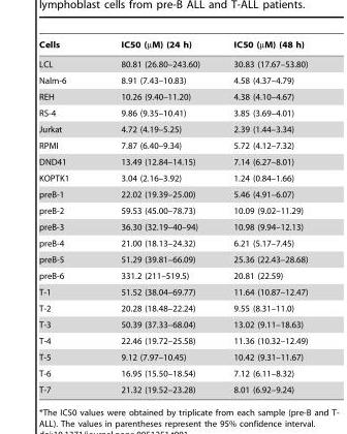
<table><thead><tr><td>Cells</td><td>IC50 (µM) (24 h)</td><td>IC50 (µM) (48 h)</td></tr></thead><tbody><tr><td>LCL</td><td>80.81 (26.80–243.60)</td><td>30.83 (17.67–53.80)</td></tr><tr><td>Nalm-6</td><td>8.91 (7.43–10.83)</td><td>4.58 (4.37–4.79)</td></tr><tr><td>REH</td><td>10.26 (9.40–11.20)</td><td>4.38 (4.10–4.67)</td></tr><tr><td>RS-4</td><td>9.86 (9.35–10.41)</td><td>3.85 (3.69–4.01)</td></tr><tr><td>Jurkat</td><td>4.72 (4.19–5.25)</td><td>2.39 (1.44–3.34)</td></tr><tr><td>RPMI</td><td>7.87 (6.40–9.34)</td><td>5.72 (4.12–7.32)</td></tr><tr><td>DND41</td><td>13.49 (12.84–14.15)</td><td>7.14 (6.27–8.01)</td></tr><tr><td>KOPTK1</td><td>3.04 (2.16–3.92)</td><td>1.24 (0.84–1.66)</td></tr><tr><td>preB-1</td><td>22.02 (19.39–25.00)</td><td>5.46 (4.91–6.07)</td></tr><tr><td>preB-2</td><td>59.53 (45.00–78.73)</td><td>10.09 (9.02–11.29)</td></tr><tr><td>preB-3</td><td>36.30 (32.19–40–94)</td><td>10.98 (9.94–12.13)</td></tr><tr><td>preB-4</td><td>21.00 (18.13–24.32)</td><td>6.21 (5.17–7.45)</td></tr><tr><td>preB-5</td><td>51.29 (39.81–66.09)</td><td>25.36 (22.43–28.68)</td></tr><tr><td>preB-6</td><td>331.2 (211–519.5)</td><td>20.81 (22.59)</td></tr><tr><td>T-1</td><td>51.52 (38.04–69.77)</td><td>11.64 (10.87–12.47)</td></tr><tr><td>T-2</td><td>20.28 (18.48–22.24)</td><td>9.55 (8.31–11.0)</td></tr><tr><td>T-3</td><td>50.39 (37.33–68.04)</td><td>13.02 (9.11–18.63)</td></tr><tr><td>T-4</td><td>22.46 (19.72–25.58)</td><td>11.36 (10.32–12.49)</td></tr><tr><td>T-5</td><td>9.12 (7.97–10.45)</td><td>10.42 (9.31–11.67)</td></tr><tr><td>T-6</td><td>16.95 (15.50–18.54)</td><td>7.12 (6.11–8.32)</td></tr><tr><td>T-7</td><td>21.32 (19.52–23.28)</td><td>8.01 (6.92–9.24)</td></tr></tbody></table>